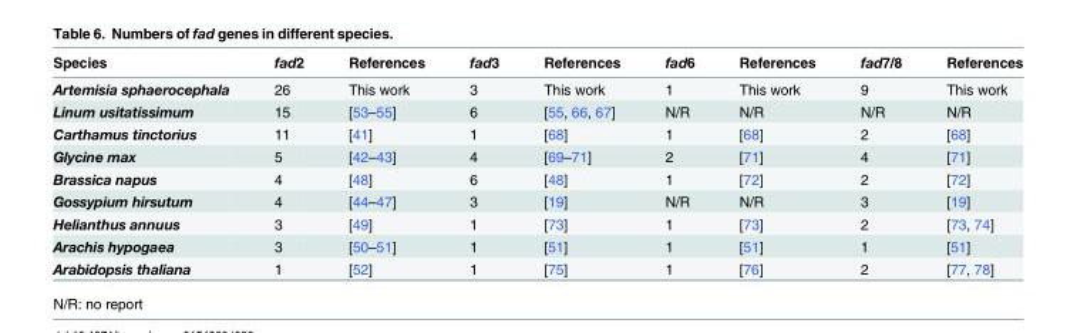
<table><thead><tr><td>Species</td><td>fad2</td><td>References</td><td>fad3</td><td>References</td><td>fad6</td><td>References</td><td>fad7/8</td><td>References</td></tr></thead><tbody><tr><td>Artemisia sphaerocephala</td><td>26</td><td>This work</td><td>3</td><td>This work</td><td>1</td><td>This work</td><td>9</td><td>This work</td></tr><tr><td>Linum usitatissimum</td><td>15</td><td>[53–55]</td><td>6</td><td>[55, 66, 67]</td><td>N/R</td><td>N/R</td><td>N/R</td><td>N/R</td></tr><tr><td>Carthamus tinctorius</td><td>11</td><td>[41]</td><td>1</td><td>[68]</td><td>1</td><td>[68]</td><td>2</td><td>[68]</td></tr><tr><td>Glycine max</td><td>5</td><td>[42–43]</td><td>4</td><td>[69–71]</td><td>2</td><td>[71]</td><td>4</td><td>[71]</td></tr><tr><td>Brassica napus</td><td>4</td><td>[48]</td><td>6</td><td>[48]</td><td>1</td><td>[72]</td><td>2</td><td>[72]</td></tr><tr><td>Gossypium hirsutum</td><td>4</td><td>[44–47]</td><td>3</td><td>[19]</td><td>N/R</td><td>N/R</td><td>3</td><td>[19]</td></tr><tr><td>Helianthus annuus</td><td>3</td><td>[49]</td><td>1</td><td>[73]</td><td>1</td><td>[73]</td><td>2</td><td>[73, 74]</td></tr><tr><td>Arachis hypogaea</td><td>3</td><td>[50–51]</td><td>1</td><td>[51]</td><td>1</td><td>[51]</td><td>1</td><td>[51]</td></tr><tr><td>Arabidopsis thaliana</td><td>1</td><td>[52]</td><td>1</td><td>[75]</td><td>1</td><td>[76]</td><td>2</td><td>[77, 78]</td></tr></tbody></table>